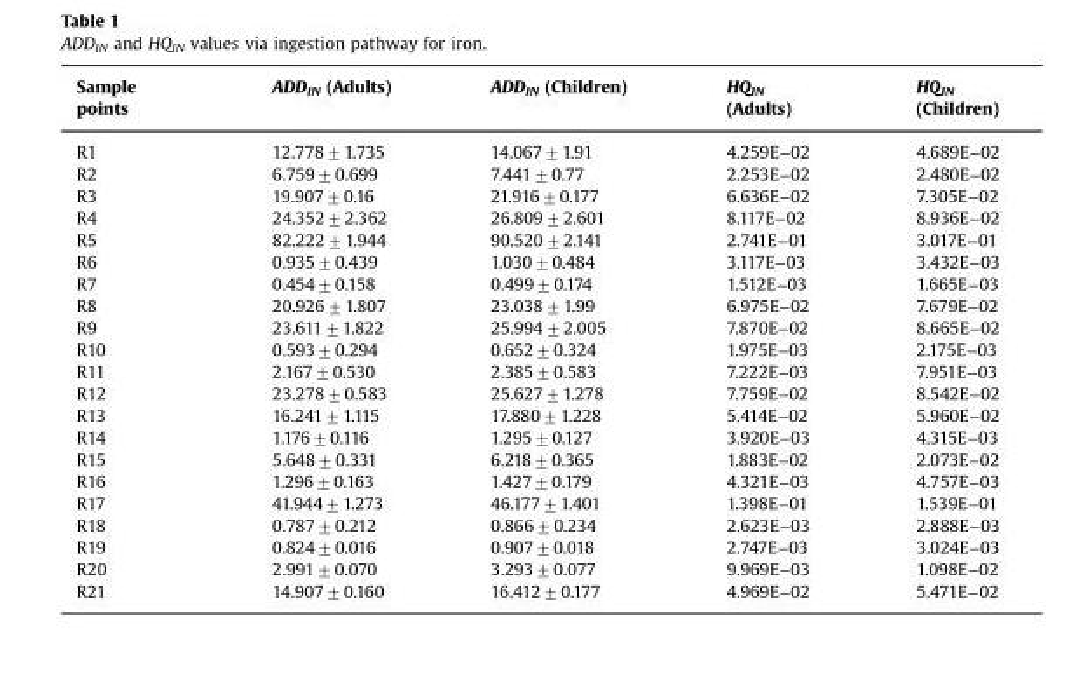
<table><thead><tr><td>Sample points</td><td>ADD<sub>IN</sub> (Adults)</td><td>ADD<sub>IN</sub> (Children)</td><td>HQ<sub>IN</sub> (Adults)</td><td>HQ<sub>IN</sub> (Children)</td></tr></thead><tbody><tr><td>R1</td><td>12.778±1.735</td><td>14.067±1.91</td><td>4.259E−02</td><td>4.689E−02</td></tr><tr><td>R2</td><td>6.759±0.699</td><td>7.441±0.77</td><td>2.253E−02</td><td>2.480E−02</td></tr><tr><td>R3</td><td>19.907±0.16</td><td>21.916±0.177</td><td>6.636E−02</td><td>7.305E−02</td></tr><tr><td>R4</td><td>24.352±2.362</td><td>26.809±2.601</td><td>8.117E−02</td><td>8.936E−02</td></tr><tr><td>R5</td><td>82.222±1.944</td><td>90.520±2.141</td><td>2.741E−01</td><td>3.017E−01</td></tr><tr><td>R6</td><td>0.935±0.439</td><td>1.030±0.484</td><td>3.117E−03</td><td>3.432E−03</td></tr><tr><td>R7</td><td>0.454±0.158</td><td>0.499±0.174</td><td>1.512E−03</td><td>1.665E−03</td></tr><tr><td>R8</td><td>20.926±1.807</td><td>23.038±1.99</td><td>6.975E−02</td><td>7.679E−02</td></tr><tr><td>R9</td><td>23.611±1.822</td><td>25.994±2.005</td><td>7.870E−02</td><td>8.665E−02</td></tr><tr><td>R10</td><td>0.593±0.294</td><td>0.652±0.324</td><td>1.975E−03</td><td>2.175E−03</td></tr><tr><td>R11</td><td>2.167±0.530</td><td>2.385±0.583</td><td>7.222E−03</td><td>7.951E−03</td></tr><tr><td>R12</td><td>23.278±0.583</td><td>25.627±1.278</td><td>7.759E−02</td><td>8.542E−02</td></tr><tr><td>R13</td><td>16.241±1.115</td><td>17.880±1.228</td><td>5.414E−02</td><td>5.960E−02</td></tr><tr><td>R14</td><td>1.176±0.116</td><td>1.295±0.127</td><td>3.920E−03</td><td>4.315E−03</td></tr><tr><td>R15</td><td>5.648±0.331</td><td>6.218±0.365</td><td>1.883E−02</td><td>2.073E−02</td></tr><tr><td>R16</td><td>1.296±0.163</td><td>1.427±0.179</td><td>4.321E−03</td><td>4.757E−03</td></tr><tr><td>R17</td><td>41.944±1.273</td><td>46.177±1.401</td><td>1.398E−01</td><td>1.539E−01</td></tr><tr><td>R18</td><td>0.787±0.212</td><td>0.866±0.234</td><td>2.623E−03</td><td>2.888E−03</td></tr><tr><td>R19</td><td>0.824±0.016</td><td>0.907±0.018</td><td>2.747E−03</td><td>3.024E−03</td></tr><tr><td>R20</td><td>2.991±0.070</td><td>3.293±0.077</td><td>9.969E−03</td><td>1.098E−02</td></tr><tr><td>R21</td><td>14.907±0.160</td><td>16.412±0.177</td><td>4.969E−02</td><td>5.471E−02</td></tr></tbody></table>